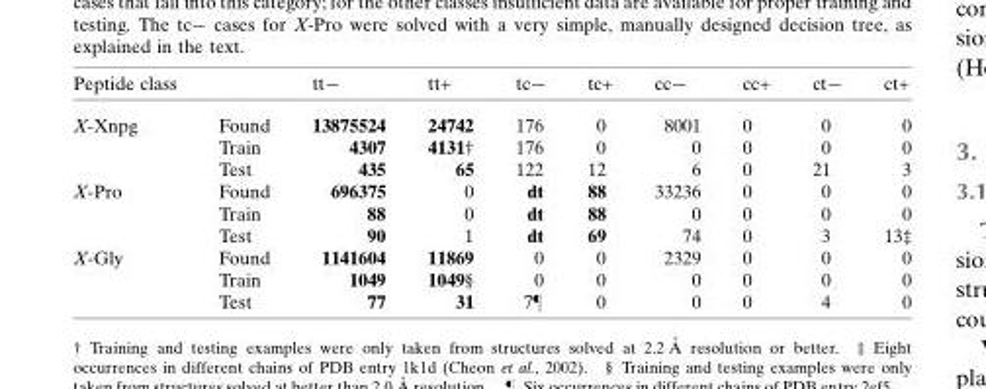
<table><thead><tr><td>Peptide class</td><td></td><td>tt�</td><td>tt+</td><td>tc�</td><td>tc+</td><td>cc�</td><td>cc+</td><td>ct�</td><td>ct+</td></tr></thead><tbody><tr><td rowspan="3">X-Xnpg</td><td>Found</td><td>13875524</td><td>24742</td><td>176</td><td>0</td><td>8001</td><td>0</td><td>0</td><td>0</td></tr><tr><td>Train</td><td>4307</td><td>4131†</td><td>176</td><td>0</td><td>0</td><td>0</td><td>0</td><td>0</td></tr><tr><td>Test</td><td>435</td><td>65</td><td>122</td><td>12</td><td>6</td><td>0</td><td>21</td><td>3</td></tr><tr><td rowspan="3">X-Pro</td><td>Found</td><td>696375</td><td>0</td><td>dt</td><td>88</td><td>33236</td><td>0</td><td>0</td><td>0</td></tr><tr><td>Train</td><td>88</td><td>0</td><td>dt</td><td>88</td><td>0</td><td>0</td><td>0</td><td>0</td></tr><tr><td>Test</td><td>90</td><td>1</td><td>dt</td><td>69</td><td>74</td><td>0</td><td>3</td><td>13‡</td></tr><tr><td rowspan="3">X-Gly</td><td>Found</td><td>1141604</td><td>11869</td><td>0</td><td>0</td><td>2329</td><td>0</td><td>0</td><td>0</td></tr><tr><td>Train</td><td>1049</td><td>1049§</td><td>0</td><td>0</td><td>0</td><td>0</td><td>0</td><td>0</td></tr><tr><td>Test</td><td>77</td><td>31</td><td>7¶</td><td>0</td><td>0</td><td>0</td><td>4</td><td>0</td></tr></tbody></table>